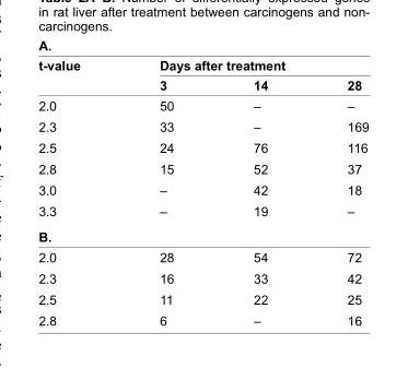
<table><thead><tr><td colspan="4">A.</td></tr><tr><td rowspan="2">t-value</td><td colspan="3">Days after treatment</td></tr><tr><td>3</td><td>14</td><td>28</td></tr></thead><tbody><tr><td>2.0</td><td>50</td><td>–</td><td>–</td></tr><tr><td>2.3</td><td>33</td><td>–</td><td>169</td></tr><tr><td>2.5</td><td>24</td><td>76</td><td>116</td></tr><tr><td>2.8</td><td>15</td><td>52</td><td>37</td></tr><tr><td>3.0</td><td>–</td><td>42</td><td>18</td></tr><tr><td>3.3</td><td>–</td><td>19</td><td>–</td></tr><tr><td colspan="4">B.</td></tr><tr><td>2.0</td><td>28</td><td>54</td><td>72</td></tr><tr><td>2.3</td><td>16</td><td>33</td><td>42</td></tr><tr><td>2.5</td><td>11</td><td>22</td><td>25</td></tr><tr><td>2.8</td><td>6</td><td>–</td><td>16</td></tr></tbody></table>